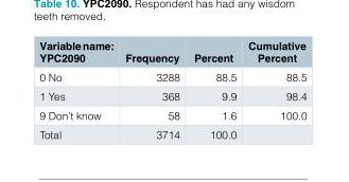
<table><thead><tr><td>Variable name: YPC2090</td><td>Frequency</td><td>Percent</td><td>Cumulative Percent</td></tr></thead><tbody><tr><td>0 No</td><td>3288</td><td>88.5</td><td>88.5</td></tr><tr><td>1 Yes</td><td>368</td><td>9.9</td><td>98.4</td></tr><tr><td>9 Don’t know</td><td>58</td><td>1.6</td><td>100.0</td></tr><tr><td>Total</td><td>3714</td><td>100.0</td><td></td></tr></tbody></table>